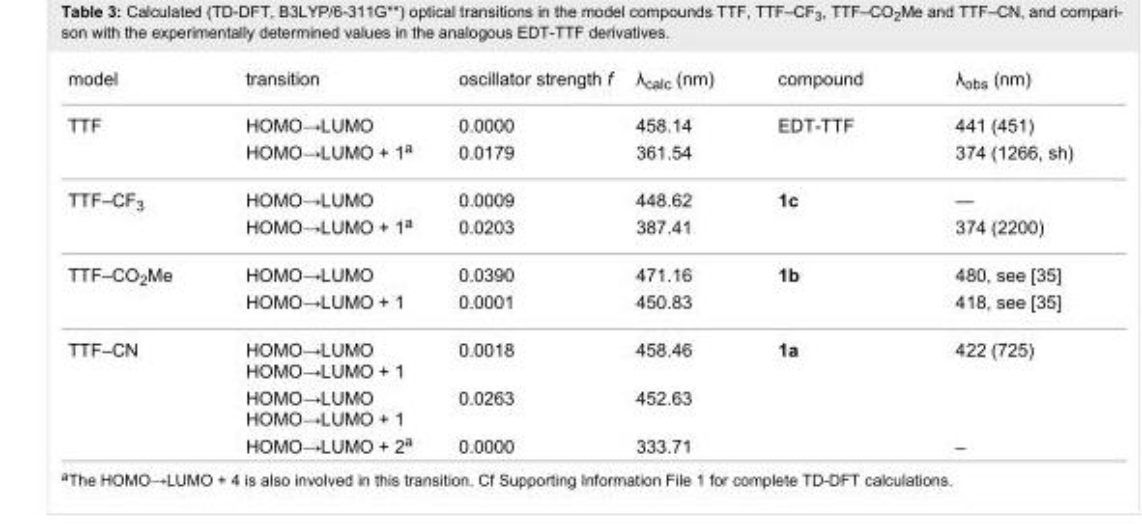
<table><tbody><tr><td>model</td><td>transition</td><td>oscillator strength f</td><td>λ<sub>calc</sub> (nm)</td><td>compound</td><td>λ<sub>obs</sub> (nm)</td></tr><tr><td rowspan="2">TTF</td><td>HOMO→LUMO</td><td>0.0000</td><td>458.14</td><td>EDT-TTF</td><td>441 (451)</td></tr><tr><td>HOMO→LUMO + 1<sup>a</sup></td><td>0.0179</td><td>361.54</td><td></td><td>374 (1266, sh)</td></tr><tr><td rowspan="2">TTF–CF<sub>3</sub></td><td>HOMO→LUMO</td><td>0.0009</td><td>448.62</td><td>1c</td><td>—</td></tr><tr><td>HOMO→LUMO + 1<sup>a</sup></td><td>0.0203</td><td>387.41</td><td></td><td>374 (2200)</td></tr><tr><td rowspan="2">TTF–CO<sub>2</sub>Me</td><td>HOMO→LUMO</td><td>0.0390</td><td>471.16</td><td>1b</td><td>480, see [35]</td></tr><tr><td>HOMO→LUMO + 1</td><td>0.0001</td><td>450.83</td><td></td><td>418, see [35]</td></tr><tr><td rowspan="3">TTF–CN</td><td>HOMO→LUMO HOMO→LUMO + 1</td><td>0.0018</td><td>458.46</td><td>1a</td><td>422 (725)</td></tr><tr><td>HOMO→LUMO HOMO→LUMO + 1</td><td>0.0263</td><td>452.63</td><td></td><td></td></tr><tr><td>HOMO→LUMO + 2<sup>a</sup></td><td>0.0000</td><td>333.71</td><td></td><td>–</td></tr></tbody></table>